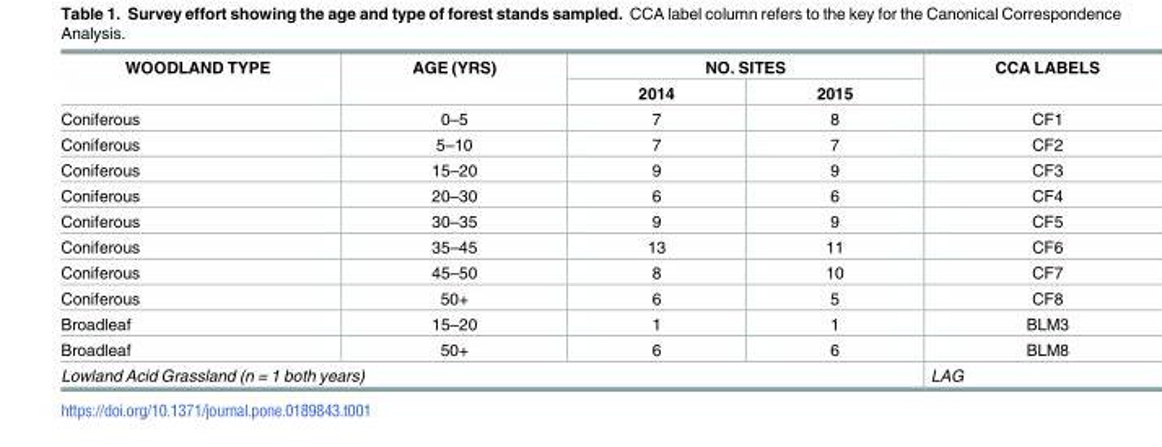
<table><thead><tr><td rowspan="2">WOODLAND TYPE</td><td rowspan="2">AGE (YRS)</td><td colspan="2">NO. SITES</td><td rowspan="2">CCA LABELS</td></tr><tr><td>2014</td><td>2015</td></tr></thead><tbody><tr><td>Coniferous</td><td>0–5</td><td>7</td><td>8</td><td>CF1</td></tr><tr><td>Coniferous</td><td>5–10</td><td>7</td><td>7</td><td>CF2</td></tr><tr><td>Coniferous</td><td>15–20</td><td>9</td><td>9</td><td>CF3</td></tr><tr><td>Coniferous</td><td>20–30</td><td>6</td><td>6</td><td>CF4</td></tr><tr><td>Coniferous</td><td>30–35</td><td>9</td><td>9</td><td>CF5</td></tr><tr><td>Coniferous</td><td>35–45</td><td>13</td><td>11</td><td>CF6</td></tr><tr><td>Coniferous</td><td>45–50</td><td>8</td><td>10</td><td>CF7</td></tr><tr><td>Coniferous</td><td>50+</td><td>6</td><td>5</td><td>CF8</td></tr><tr><td>Broadleaf</td><td>15–20</td><td>1</td><td>1</td><td>BLM3</td></tr><tr><td>Broadleaf</td><td>50+</td><td>6</td><td>6</td><td>BLM8</td></tr><tr><td colspan="4">Lowland Acid Grassland (n = 1 both years)</td><td>LAG</td></tr></tbody></table>